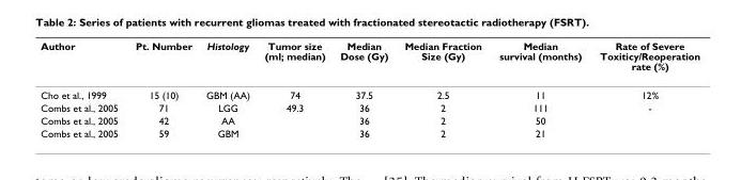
<table><thead><tr><td>Author</td><td>Pt. Number</td><td>Histology</td><td>Tumor size (ml; median)</td><td>Median Dose (Gy)</td><td>Median Fraction Size (Gy)</td><td>Median survival (months)</td><td>Rate of Severe Toxiticy/Reoperation rate (%)</td></tr></thead><tbody><tr><td>Cho et al., 1999</td><td>15 (10)</td><td>GBM (AA)</td><td>74</td><td>37.5</td><td>2.5</td><td>11</td><td>12%</td></tr><tr><td>Combs et al., 2005</td><td>71</td><td>LGG</td><td>49.3</td><td>36</td><td>2</td><td>111</td><td>-</td></tr><tr><td>Combs et al., 2005</td><td>42</td><td>AA</td><td></td><td>36</td><td>2</td><td>50</td><td></td></tr><tr><td>Combs et al., 2005</td><td>59</td><td>GBM</td><td></td><td>36</td><td>2</td><td>21</td><td></td></tr></tbody></table>